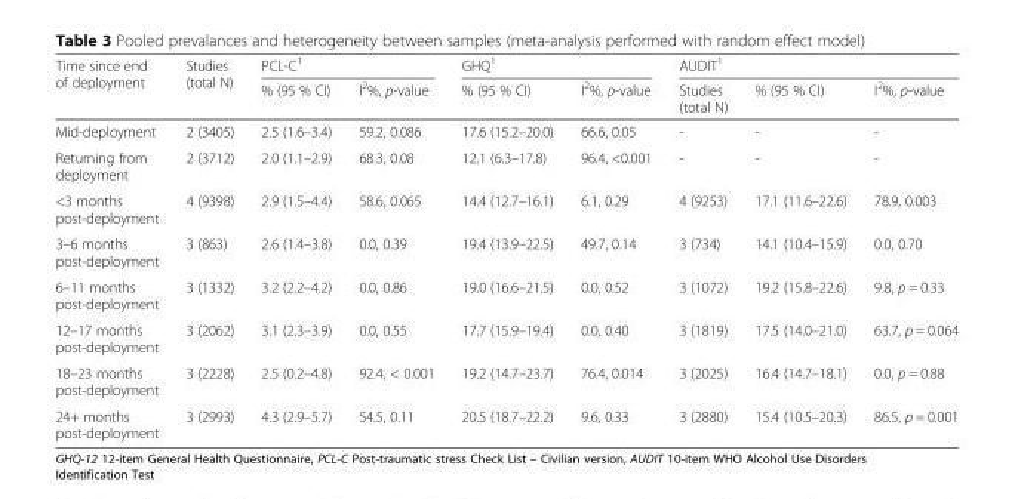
<table><thead><tr><td rowspan="2">Time since end of deployment</td><td rowspan="2">Studies (total N)</td><td colspan="2">PCL-C<sup>1</sup></td><td colspan="2">GHQ<sup>1</sup></td><td colspan="3">AUDIT<sup>1</sup></td></tr><tr><td>% (95 % CI)</td><td>I<sup>2</sup>%, p-value</td><td>% (95 % CI)</td><td>I<sup>2</sup>%, p-value</td><td>Studies (total N)</td><td>% (95 % CI)</td><td>I<sup>2</sup>%, p-value</td></tr></thead><tbody><tr><td>Mid-deployment</td><td>2 (3405)</td><td>2.5 (1.6–3.4)</td><td>59.2, 0.086</td><td>17.6 (15.2–20.0)</td><td>66.6, 0.05</td><td>-</td><td>-</td><td>-</td></tr><tr><td>Returning from deployment</td><td>2 (3712)</td><td>2.0 (1.1–2.9)</td><td>68.3, 0.08</td><td>12.1 (6.3–17.8)</td><td>96.4, &lt;0.001</td><td>-</td><td>-</td><td>-</td></tr><tr><td>&lt;3 months post-deployment</td><td>4 (9398)</td><td>2.9 (1.5–4.4)</td><td>58.6, 0.065</td><td>14.4 (12.7–16.1)</td><td>6.1, 0.29</td><td>4 (9253)</td><td>17.1 (11.6–22.6)</td><td>78.9, 0.003</td></tr><tr><td>3–6 months post-deployment</td><td>3 (863)</td><td>2.6 (1.4–3.8)</td><td>0.0, 0.39</td><td>19.4 (13.9–22.5)</td><td>49.7, 0.14</td><td>3 (734)</td><td>14.1 (10.4–15.9)</td><td>0.0, 0.70</td></tr><tr><td>6–11 months post-deployment</td><td>3 (1332)</td><td>3.2 (2.2–4.2)</td><td>0.0, 0.86</td><td>19.0 (16.6–21.5)</td><td>0.0, 0.52</td><td>3 (1072)</td><td>19.2 (15.8–22.6)</td><td>9.8, p = 0.33</td></tr><tr><td>12–17 months post-deployment</td><td>3 (2062)</td><td>3.1 (2.3–3.9)</td><td>0.0, 0.55</td><td>17.7 (15.9–19.4)</td><td>0.0, 0.40</td><td>3 (1819)</td><td>17.5 (14.0–21.0)</td><td>63.7, p = 0.064</td></tr><tr><td>18–23 months post-deployment</td><td>3 (2228)</td><td>2.5 (0.2–4.8)</td><td>92.4, &lt; 0.001</td><td>19.2 (14.7–23.7)</td><td>76.4, 0.014</td><td>3 (2025)</td><td>16.4 (14.7–18.1)</td><td>0.0, p = 0.88</td></tr><tr><td>24+ months post-deployment</td><td>3 (2993)</td><td>4.3 (2.9–5.7)</td><td>54.5, 0.11</td><td>20.5 (18.7–22.2)</td><td>9.6, 0.33</td><td>3 (2880)</td><td>15.4 (10.5–20.3)</td><td>86.5, p = 0.001</td></tr></tbody></table>